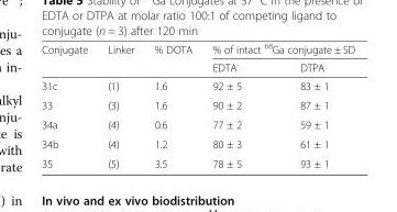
<table><thead><tr><td rowspan="2">Conjugate</td><td rowspan="2">Linker</td><td rowspan="2">% DOTA</td><td colspan="2">% of intact <sup>68</sup>Ga conjugate ± SD</td></tr><tr><td>EDTA</td><td>DTPA</td></tr></thead><tbody><tr><td>31c</td><td>(1)</td><td>1.6</td><td>92 ± 5</td><td>83 ± 1</td></tr><tr><td>33</td><td>(3)</td><td>1.6</td><td>90 ± 2</td><td>87 ± 1</td></tr><tr><td>34a</td><td>(4)</td><td>0.6</td><td>77 ± 2</td><td>59 ± 1</td></tr><tr><td>34b</td><td>(4)</td><td>1.2</td><td>80 ± 3</td><td>61 ± 1</td></tr><tr><td>35</td><td>(5)</td><td>3.5</td><td>78 ± 5</td><td>93 ± 1</td></tr></tbody></table>